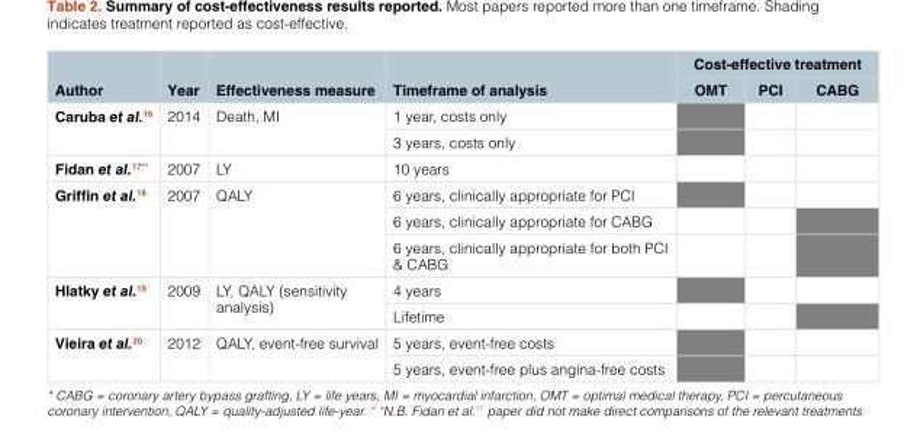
<table><thead><tr><td rowspan="2">Author</td><td rowspan="2">Year</td><td rowspan="2">Effectiveness measure</td><td rowspan="2">Timeframe of analysis</td><td colspan="3">Cost-effective treatment</td></tr><tr><td>OMT</td><td>PCI</td><td>CABG</td></tr></thead><tbody><tr><td rowspan="2">Caruba et al.<sup>16</sup></td><td rowspan="2">2014</td><td rowspan="2">Death, MI</td><td>1 year, costs only</td><td></td><td></td><td></td></tr><tr><td>3 years, costs only</td><td></td><td></td><td></td></tr><tr><td>Fidan et al.17**</td><td>2007</td><td>LY</td><td>10 years</td><td></td><td></td><td></td></tr><tr><td rowspan="3">Griffin et al.<sup>18</sup></td><td rowspan="3">2007</td><td rowspan="3">QALY</td><td>6 years, clinically appropriate for PCI</td><td></td><td></td><td></td></tr><tr><td>6 years, clinically appropriate for CABG</td><td></td><td></td><td></td></tr><tr><td>6 years, clinically appropriate for both PCI &amp; CABG</td><td></td><td></td><td></td></tr><tr><td rowspan="2">Hlatky et al.<sup>19</sup></td><td rowspan="2">2009</td><td rowspan="2">LY, QALY (sensitivity analysis)</td><td>4 years</td><td></td><td></td><td></td></tr><tr><td>Lifetime</td><td></td><td></td><td></td></tr><tr><td rowspan="2">Vieira et al.<sup>20</sup></td><td rowspan="2">2012</td><td rowspan="2">QALY, event-free survival</td><td>5 years, event-free costs</td><td></td><td></td><td></td></tr><tr><td>5 years, event-free plus angina-free costs</td><td></td><td></td><td></td></tr></tbody></table>